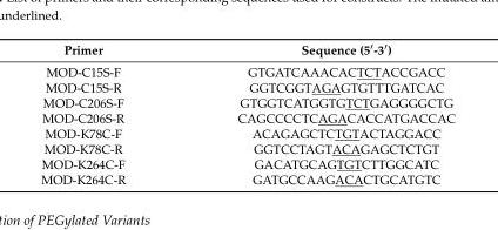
<table><thead><tr><td>Primer</td><td>Sequence (5′-3′)</td></tr></thead><tbody><tr><td>MOD-C15S-F</td><td>GTGATCAAACACTCTACCGACC</td></tr><tr><td>MOD-C15S-R</td><td>GGTCGGTAGAGTGTTTGATCAC</td></tr><tr><td>MOD-C206S-F</td><td>GTGGTCATGGTGTCTGAGGGGCTG</td></tr><tr><td>MOD-C206S-R</td><td>CAGCCCCTCAGACACCATGACCAC</td></tr><tr><td>MOD-K78C-F</td><td>ACAGAGCTCTGTACTAGGACC</td></tr><tr><td>MOD-K78C-R</td><td>GGTCCTAGTACAGAGCTCTGT</td></tr><tr><td>MOD-K264C-F</td><td>GACATGCAGTGTCTTGGCATC</td></tr><tr><td>MOD-K264C-R</td><td>GATGCCAAGACACTGCATGTC</td></tr></tbody></table>